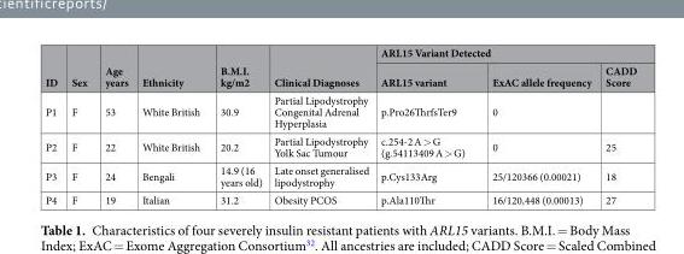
<table><thead><tr><td rowspan="2">ID</td><td rowspan="2">Sex</td><td rowspan="2">Age years</td><td rowspan="2">Ethnicity</td><td rowspan="2">B.M.I. kg/m2</td><td rowspan="2">Clinical Diagnoses</td><td colspan="3">ARL15 Variant Detected</td></tr><tr><td>ARL15 variant</td><td>ExAC allele frequency</td><td>CADD Score</td></tr></thead><tbody><tr><td>P1</td><td>F</td><td>53</td><td>White British</td><td>30.9</td><td>Partial Lipodystrophy Congenital Adrenal Hyperplasia</td><td>p.Pro26ThrfsTer9</td><td>0</td><td></td></tr><tr><td>P2</td><td>F</td><td>22</td><td>White British</td><td>20.2</td><td>Partial Lipodystrophy Yolk Sac Tumour</td><td>c.254-2 A &gt; G (g.54113409 A &gt; G)</td><td>0</td><td>25</td></tr><tr><td>P3</td><td>F</td><td>24</td><td>Bengali</td><td>14.9 (16 years old)</td><td>Late onset generalised lipodystrophy</td><td>p.Cys133Arg</td><td>25/120366 (0.00021)</td><td>18</td></tr><tr><td>P4</td><td>F</td><td>19</td><td>Italian</td><td>31.2</td><td>Obesity PCOS</td><td>p.Ala110Thr</td><td>16/120,448 (0.00013)</td><td>27</td></tr></tbody></table>